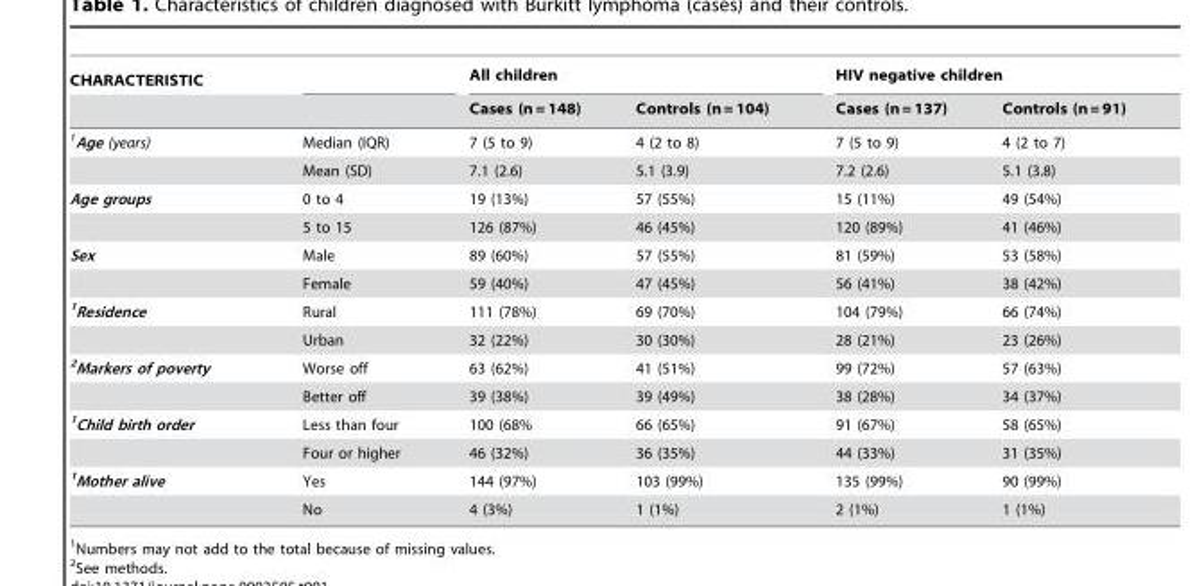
<table><thead><tr><td rowspan="2">CHARACTERISTIC</td><td rowspan="2"></td><td colspan="2">All children</td><td colspan="2">HIV negative children</td></tr><tr><td>Cases (n = 148)</td><td>Controls (n = 104)</td><td>Cases (n = 137)</td><td>Controls (n = 91)</td></tr></thead><tbody><tr><td rowspan="2">1Age (years)</td><td>Median (IQR)</td><td>7 (5 to 9)</td><td>4 (2 to 8)</td><td>7 (5 to 9)</td><td>4 (2 to 7)</td></tr><tr><td>Mean (SD)</td><td>7.1 (2.6)</td><td>5.1 (3.9)</td><td>7.2 (2.6)</td><td>5.1 (3.8)</td></tr><tr><td rowspan="2">Age groups</td><td>0 to 4</td><td>19 (13%)</td><td>57 (55%)</td><td>15 (11%)</td><td>49 (54%)</td></tr><tr><td>5 to 15</td><td>126 (87%)</td><td>46 (45%)</td><td>120 (89%)</td><td>41 (46%)</td></tr><tr><td rowspan="2">Sex</td><td>Male</td><td>89 (60%)</td><td>57 (55%)</td><td>81 (59%)</td><td>53 (58%)</td></tr><tr><td>Female</td><td>59 (40%)</td><td>47 (45%)</td><td>56 (41%)</td><td>38 (42%)</td></tr><tr><td rowspan="2">1Residence</td><td>Rural</td><td>111 (78%)</td><td>69 (70%)</td><td>104 (79%)</td><td>66 (74%)</td></tr><tr><td>Urban</td><td>32 (22%)</td><td>30 (30%)</td><td>28 (21%)</td><td>23 (26%)</td></tr><tr><td rowspan="2">2Markers of poverty</td><td>Worse off</td><td>63 (62%)</td><td>41 (51%)</td><td>99 (72%)</td><td>57 (63%)</td></tr><tr><td>Better off</td><td>39 (38%)</td><td>39 (49%)</td><td>38 (28%)</td><td>34 (37%)</td></tr><tr><td rowspan="2">1Child birth order</td><td>Less than four</td><td>100 (68%</td><td>66 (65%)</td><td>91 (67%)</td><td>58 (65%)</td></tr><tr><td>Four or higher</td><td>46 (32%)</td><td>36 (35%)</td><td>44 (33%)</td><td>31 (35%)</td></tr><tr><td rowspan="2">1Mother alive</td><td>Yes</td><td>144 (97%)</td><td>103 (99%)</td><td>135 (99%)</td><td>90 (99%)</td></tr><tr><td>No</td><td>4 (3%)</td><td>1 (1%)</td><td>2 (1%)</td><td>1 (1%)</td></tr></tbody></table>